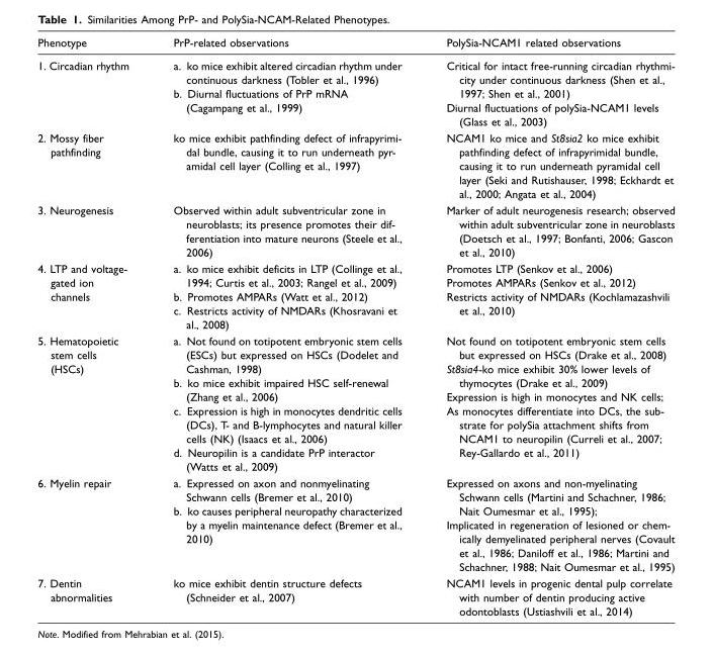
<table><thead><tr><td>Phenotype</td><td>PrP-related observations</td><td>PolySia-NCAM1 related observations</td></tr></thead><tbody><tr><td>1. Circadian rhythm</td><td>a. ko mice exhibit altered circadian rhythm under continuous darkness (Tobler et al., 1996) b. Diurnal fluctuations of PrP mRNA (Cagampang et al., 1999)</td><td>Critical for intact free-running circadian rhythmi- city under continuous darkness (Shen et al., 1997; Shen et al., 2001) Diurnal fluctuations of polySia-NCAM1 levels (Glass et al., 2003)</td></tr><tr><td>2. Mossy fiber pathfinding</td><td>ko mice exhibit pathfinding defect of infrapyrimi- dal bundle, causing it to run underneath pyr- amidal cell layer (Colling et al., 1997)</td><td>NCAM1 ko mice and St8sia2 ko mice exhibit pathfinding defect of infrapyrimidal bundle, causing it to run underneath pyramidal cell layer (Seki and Rutishauser, 1998; Eckhardt et al., 2000; Angata et al., 2004)</td></tr><tr><td>3. Neurogenesis</td><td>Observed within adult subventricular zone in neuroblasts; its presence promotes their dif- ferentiation into mature neurons (Steele et al., 2006)</td><td>Marker of adult neurogenesis research; observed within adult subventricular zone in neuroblasts (Doetsch et al., 1997; Bonfanti, 2006; Gascon et al., 2010)</td></tr><tr><td>4. LTP and voltage- gated ion channels</td><td>a. ko mice exhibit deficits in LTP (Collinge et al., 1994; Curtis et al., 2003; Rangel et al., 2009) b. Promotes AMPARs (Watt et al., 2012) c. Restricts activity of NMDARs (Khosravani et al., 2008)</td><td>Promotes LTP (Senkov et al., 2006) Promotes AMPARs (Senkov et al., 2012) Restricts activity of NMDARs (Kochlamazashvili et al., 2010)</td></tr><tr><td>5. Hematopoietic stem cells (HSCs)</td><td>a. Not found on totipotent embryonic stem cells (ESCs) but expressed on HSCs (Dodelet and Cashman, 1998) b. ko mice exhibit impaired HSC self-renewal (Zhang et al., 2006) c. Expression is high in monocytes dendritic cells (DCs), T- and B-lymphocytes and natural killer cells (NK) (Isaacs et al., 2006) d. Neuropilin is a candidate PrP interactor (Watts et al., 2009)</td><td>Not found on totipotent embryonic stem cells but expressed on HSCs (Drake et al., 2008) St8sia4-ko mice exhibit 30% lower levels of thymocytes (Drake et al., 2009) Expression is high in monocytes and NK cells; As monocytes differentiate into DCs, the sub- strate for polySia attachment shifts from NCAM1 to neuropilin (Curreli et al., 2007; Rey-Gallardo et al., 2011)</td></tr><tr><td>6. Myelin repair</td><td>a. Expressed on axon and nonmyelinating Schwann cells (Bremer et al., 2010) b. ko causes peripheral neuropathy characterized by a myelin maintenance defect (Bremer et al., 2010)</td><td>Expressed on axons and non-myelinating Schwann cells (Martini and Schachner, 1986; Nait Oumesmar et al., 1995); Implicated in regeneration of lesioned or chem- ically demyelinated peripheral nerves (Covault et al., 1986; Daniloff et al., 1986; Martini and Schachner, 1988; Nait Oumesmar et al., 1995)</td></tr><tr><td>7. Dentin abnormalities</td><td>ko mice exhibit dentin structure defects (Schneider et al., 2007)</td><td>NCAM1 levels in progenic dental pulp correlate with number of dentin producing active odontoblasts (Ustiashvili et al., 2014)</td></tr></tbody></table>